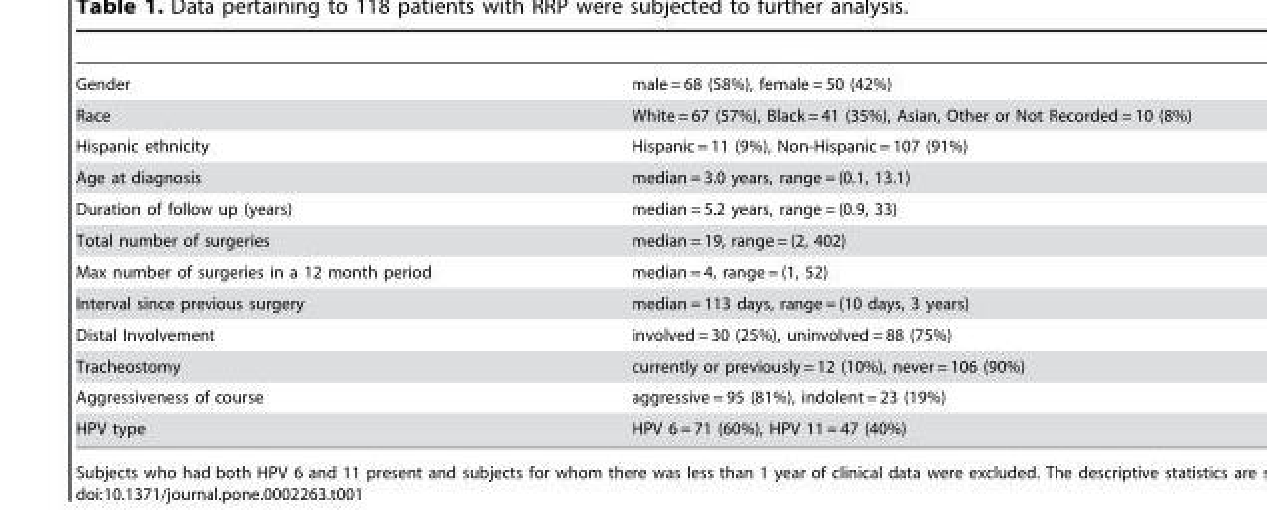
<table><tbody><tr><td>Gender</td><td>male = 68 (58%), female = 50 (42%)</td></tr><tr><td>Race</td><td>White = 67 (57%), Black = 41 (35%), Asian, Other or Not Recorded = 10 (8%)</td></tr><tr><td>Hispanic ethnicity</td><td>Hispanic = 11 (9%), Non-Hispanic = 107 (91%)</td></tr><tr><td>Age at diagnosis</td><td>median = 3.0 years, range = (0.1, 13.1)</td></tr><tr><td>Duration of follow up (years)</td><td>median = 5.2 years, range = (0.9, 33)</td></tr><tr><td>Total number of surgeries</td><td>median = 19, range = (2, 402)</td></tr><tr><td>Max number of surgeries in a 12 month period</td><td>median = 4, range = (1, 52)</td></tr><tr><td>Interval since previous surgery</td><td>median = 113 days, range = (10 days, 3 years)</td></tr><tr><td>Distal Involvement</td><td>involved = 30 (25%), uninvolved = 88 (75%)</td></tr><tr><td>Tracheostomy</td><td>currently or previously = 12 (10%), never = 106 (90%)</td></tr><tr><td>Aggressiveness of course</td><td>aggressive = 95 (81%), indolent = 23 (19%)</td></tr><tr><td>HPV type</td><td>HPV 6 = 71 (60%), HPV 11 = 47 (40%)</td></tr></tbody></table>